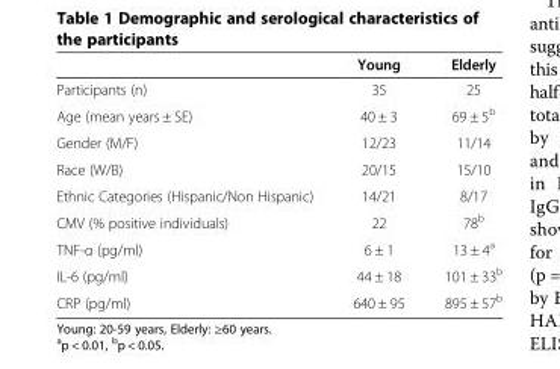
<table><thead><tr><td></td><td>Young</td><td>Elderly</td></tr></thead><tbody><tr><td>Participants (n)</td><td>35</td><td>25</td></tr><tr><td>Age (mean years ± SE)</td><td>40 ± 3</td><td>69 ± 5<sup>b</sup></td></tr><tr><td>Gender (M/F)</td><td>12/23</td><td>11/14</td></tr><tr><td>Race (W/B)</td><td>20/15</td><td>15/10</td></tr><tr><td>Ethnic Categories (Hispanic/Non Hispanic)</td><td>14/21</td><td>8/17</td></tr><tr><td>CMV (% positive individuals)</td><td>22</td><td>78<sup>b</sup></td></tr><tr><td>TNF-α (pg/ml)</td><td>6 ± 1</td><td>13 ± 4<sup>a</sup></td></tr><tr><td>IL-6 (pg/ml)</td><td>44 ± 18</td><td>101 ± 33<sup>b</sup></td></tr><tr><td>CRP (pg/ml)</td><td>640 ± 95</td><td>895 ± 57<sup>b</sup></td></tr></tbody></table>